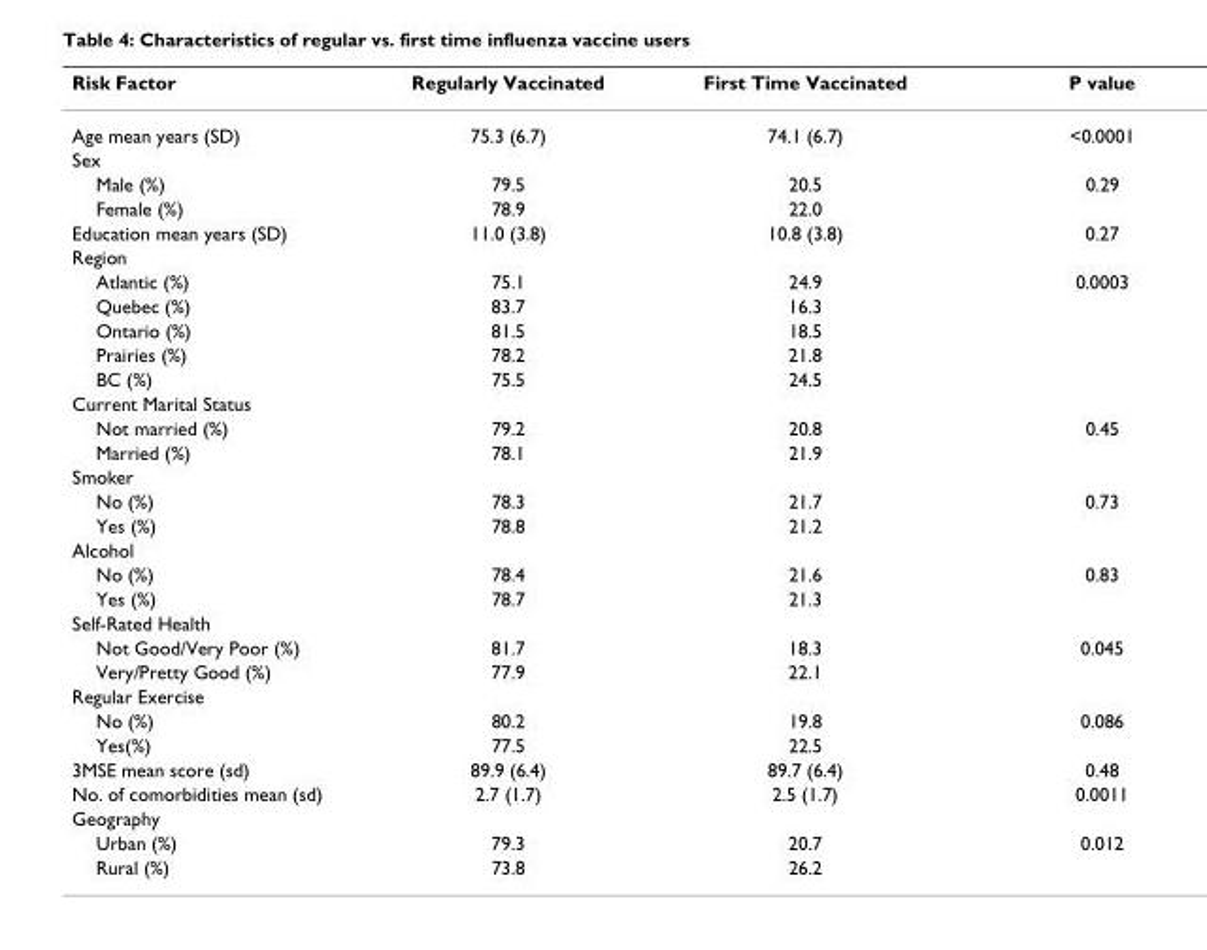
<table><thead><tr><td>Risk Factor</td><td>Regularly Vaccinated</td><td>First Time Vaccinated</td><td>P value</td></tr></thead><tbody><tr><td>Age mean years (SD)</td><td>75.3 (6.7)</td><td>74.1 (6.7)</td><td>&lt;0.0001</td></tr><tr><td colspan="4">Sex</td></tr><tr><td>Male (%)</td><td>79.5</td><td>20.5</td><td>0.29</td></tr><tr><td>Female (%)</td><td>78.9</td><td>22.0</td><td></td></tr><tr><td>Education mean years (SD)</td><td>11.0 (3.8)</td><td>10.8 (3.8)</td><td>0.27</td></tr><tr><td colspan="4">Region</td></tr><tr><td>Atlantic (%)</td><td>75.1</td><td>24.9</td><td>0.0003</td></tr><tr><td>Quebec (%)</td><td>83.7</td><td>16.3</td><td></td></tr><tr><td>Ontario (%)</td><td>81.5</td><td>18.5</td><td></td></tr><tr><td>Prairies (%)</td><td>78.2</td><td>21.8</td><td></td></tr><tr><td>BC (%)</td><td>75.5</td><td>24.5</td><td></td></tr><tr><td colspan="4">Current Marital Status</td></tr><tr><td>Not married (%)</td><td>79.2</td><td>20.8</td><td>0.45</td></tr><tr><td>Married (%)</td><td>78.1</td><td>21.9</td><td></td></tr><tr><td colspan="4">Smoker</td></tr><tr><td>No (%)</td><td>78.3</td><td>21.7</td><td>0.73</td></tr><tr><td>Yes (%)</td><td>78.8</td><td>21.2</td><td></td></tr><tr><td colspan="4">Alcohol</td></tr><tr><td>No (%)</td><td>78.4</td><td>21.6</td><td>0.83</td></tr><tr><td>Yes (%)</td><td>78.7</td><td>21.3</td><td></td></tr><tr><td colspan="4">Self-Rated Health</td></tr><tr><td>Not Good/Very Poor (%)</td><td>81.7</td><td>18.3</td><td>0.045</td></tr><tr><td>Very/Pretty Good (%)</td><td>77.9</td><td>22.1</td><td></td></tr><tr><td colspan="4">Regular Exercise</td></tr><tr><td>No (%)</td><td>80.2</td><td>19.8</td><td>0.086</td></tr><tr><td>Yes(%)</td><td>77.5</td><td>22.5</td><td></td></tr><tr><td>3MSE mean score (sd)</td><td>89.9 (6.4)</td><td>89.7 (6.4)</td><td>0.48</td></tr><tr><td>No. of comorbidities mean (sd)</td><td>2.7 (1.7)</td><td>2.5 (1.7)</td><td>0.0011</td></tr><tr><td colspan="4">Geography</td></tr><tr><td>Urban (%)</td><td>79.3</td><td>20.7</td><td>0.012</td></tr><tr><td>Rural (%)</td><td>73.8</td><td>26.2</td><td></td></tr></tbody></table>